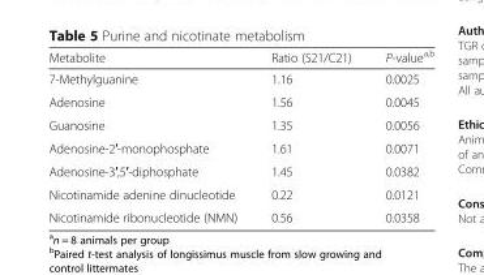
<table><thead><tr><td>Metabolite</td><td>Ratio (S21/C21)</td><td>P-value<sup>a,b</sup></td></tr></thead><tbody><tr><td>7-Methylguanine</td><td>1.16</td><td>0.0025</td></tr><tr><td>Adenosine</td><td>1.56</td><td>0.0045</td></tr><tr><td>Guanosine</td><td>1.35</td><td>0.0056</td></tr><tr><td>Adenosine-2′-monophosphate</td><td>1.61</td><td>0.0071</td></tr><tr><td>Adenosine-3′,5′-diphosphate</td><td>1.45</td><td>0.0382</td></tr><tr><td>Nicotinamide adenine dinucleotide</td><td>0.22</td><td>0.0121</td></tr><tr><td>Nicotinamide ribonucleotide (NMN)</td><td>0.56</td><td>0.0358</td></tr></tbody></table>